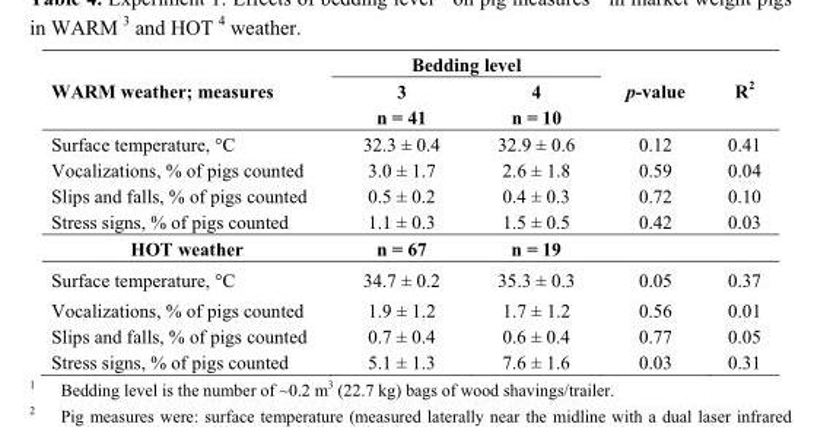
<table><thead><tr><td rowspan="3">WARM weather; measures</td><td colspan="2">Bedding level</td><td rowspan="3">p-value</td><td rowspan="3">R<sup>2</sup></td></tr><tr><td rowspan="2">3 n = 41</td><td rowspan="2">4 n = 10</td></tr><tr></tr></thead><tbody><tr><td>Surface temperature, °C</td><td>32.3 ± 0.4</td><td>32.9 ± 0.6</td><td>0.12</td><td>0.41</td></tr><tr><td>Vocalizations, % of pigs counted</td><td>3.0 ± 1.7</td><td>2.6 ± 1.8</td><td>0.59</td><td>0.04</td></tr><tr><td>Slips and falls, % of pigs counted</td><td>0.5 ± 0.2</td><td>0.4 ± 0.3</td><td>0.72</td><td>0.10</td></tr><tr><td>Stress signs, % of pigs counted</td><td>1.1 ± 0.3</td><td>1.5 ± 0.5</td><td>0.42</td><td>0.03</td></tr><tr><td>HOT weather</td><td>n = 67</td><td>n = 19</td><td></td><td></td></tr><tr><td>Surface temperature, °C</td><td>34.7 ± 0.2</td><td>35.3 ± 0.3</td><td>0.05</td><td>0.37</td></tr><tr><td>Vocalizations, % of pigs counted</td><td>1.9 ± 1.2</td><td>1.7 ± 1.2</td><td>0.56</td><td>0.01</td></tr><tr><td>Slips and falls, % of pigs counted</td><td>0.7 ± 0.4</td><td>0.6 ± 0.4</td><td>0.77</td><td>0.05</td></tr><tr><td>Stress signs, % of pigs counted</td><td>5.1 ± 1.3</td><td>7.6 ± 1.6</td><td>0.03</td><td>0.31</td></tr></tbody></table>